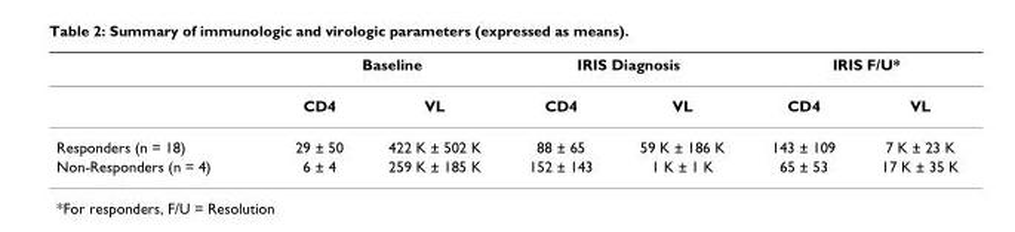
<table><thead><tr><td rowspan="2"></td><td colspan="2">Baseline</td><td colspan="2">IRIS Diagnosis</td><td colspan="2">IRIS F/U*</td></tr><tr><td>CD4</td><td>VL</td><td>CD4</td><td>VL</td><td>CD4</td><td>VL</td></tr></thead><tbody><tr><td>Responders (n = 18)</td><td>29 ± 50</td><td>422 K ± 502 K</td><td>88 ± 65</td><td>59 K ± 186 K</td><td>143 ± 109</td><td>7 K ± 23 K</td></tr><tr><td>Non-Responders (n = 4)</td><td>6 ± 4</td><td>259 K ± 185 K</td><td>152 ± 143</td><td>1 K ± 1 K</td><td>65 ± 53</td><td>17 K ± 35 K</td></tr></tbody></table>